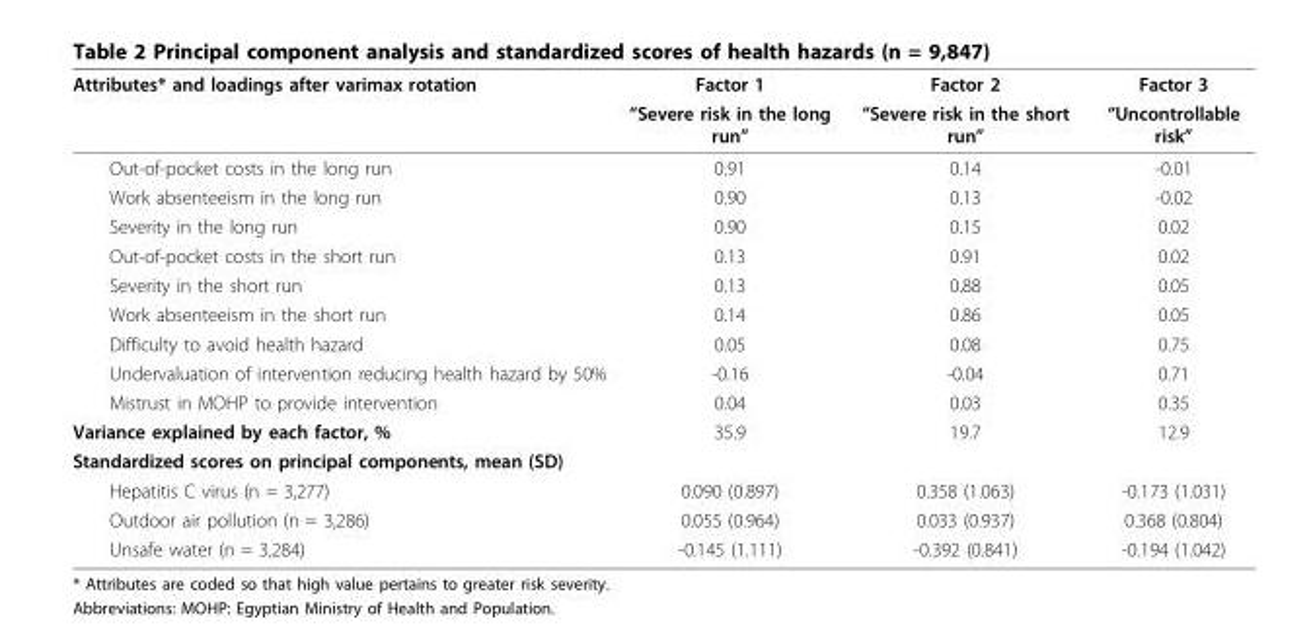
<table><thead><tr><td rowspan="2">Attributes* and loadings after varimax rotation</td><td rowspan="2">Factor 1 “Severe risk in the long run”</td><td rowspan="2">Factor 2 “Severe risk in the short run”</td><td rowspan="2">Factor 3 “Uncontrollable risk”</td></tr><tr></tr></thead><tbody><tr><td>Out-of-pocket costs in the long run</td><td>0.91</td><td>0.14</td><td>-0.01</td></tr><tr><td>Work absenteeism in the long run</td><td>0.90</td><td>0.13</td><td>-0.02</td></tr><tr><td>Severity in the long run</td><td>0.90</td><td>0.15</td><td>0.02</td></tr><tr><td>Out-of-pocket costs in the short run</td><td>0.13</td><td>0.91</td><td>0.02</td></tr><tr><td>Severity in the short run</td><td>0.13</td><td>0.88</td><td>0.05</td></tr><tr><td>Work absenteeism in the short run</td><td>0.14</td><td>0.86</td><td>0.05</td></tr><tr><td>Difficulty to avoid health hazard</td><td>0.05</td><td>0.08</td><td>0.75</td></tr><tr><td>Undervaluation of intervention reducing health hazard by 50%</td><td>-0.16</td><td>-0.04</td><td>0.71</td></tr><tr><td>Mistrust in MOHP to provide intervention</td><td>0.04</td><td>0.03</td><td>0.35</td></tr><tr><td>Variance explained by each factor, %</td><td>35.9</td><td>19.7</td><td>12.9</td></tr><tr><td colspan="4">Standardized scores on principal components, mean (SD)</td></tr><tr><td>Hepatitis C virus (n = 3,277)</td><td>0.090 (0.897)</td><td>0.358 (1.063)</td><td>-0.173 (1.031)</td></tr><tr><td>Outdoor air pollution (n = 3,286)</td><td>0.055 (0.964)</td><td>0.033 (0.937)</td><td>0.368 (0.804)</td></tr><tr><td>Unsafe water (n = 3,284)</td><td>-0.145 (1.111)</td><td>-0.392 (0.841)</td><td>-0.194 (1.042)</td></tr></tbody></table>